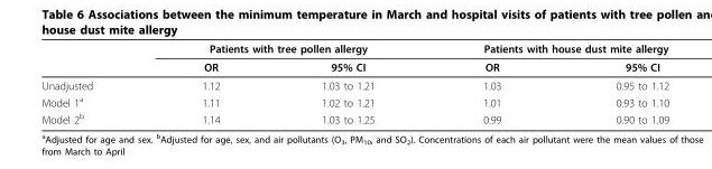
<table><thead><tr><td rowspan="2"></td><td colspan="2">Patients with tree pollen allergy</td><td colspan="2">Patients with house dust mite allergy</td></tr><tr><td>OR</td><td>95% CI</td><td>OR</td><td>95% CI</td></tr></thead><tbody><tr><td>Unadjusted</td><td>1.12</td><td>1.03 to 1.21</td><td>1.03</td><td>0.95 to 1.12</td></tr><tr><td>Model 1<sup>a</sup></td><td>1.11</td><td>1.02 to 1.21</td><td>1.01</td><td>0.93 to 1.10</td></tr><tr><td>Model 2<sup>b</sup></td><td>1.14</td><td>1.03 to 1.25</td><td>0.99</td><td>0.90 to 1.09</td></tr></tbody></table>